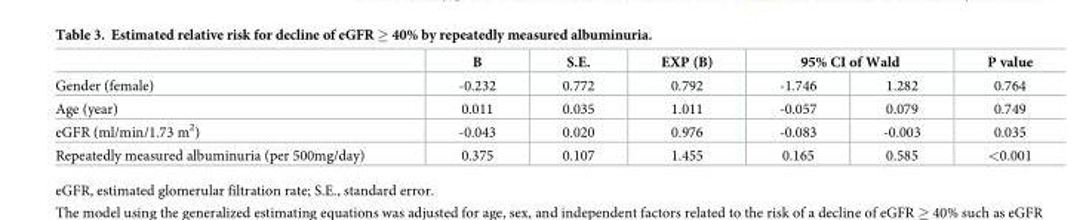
<table><thead><tr><td rowspan="2">Gender (female)</td><td rowspan="2">B -0.232</td><td rowspan="2">S.E. 0.772</td><td rowspan="2">EXP (B) 0.792</td><td colspan="2">95% CI of Wald</td><td rowspan="2">P value 0.764</td></tr><tr><td>-1.746</td><td>1.282</td></tr></thead><tbody><tr><td>Age (year)</td><td>0.011</td><td>0.035</td><td>1.011</td><td>-0.057</td><td>0.079</td><td>0.749</td></tr><tr><td>eGFR (ml/min/1.73 m<sup>2</sup>)</td><td>-0.043</td><td>0.020</td><td>0.976</td><td>-0.083</td><td>-0.003</td><td>0.035</td></tr><tr><td>Repeatedly measured albuminuria (per 500mg/day)</td><td>0.375</td><td>0.107</td><td>1.455</td><td>0.165</td><td>0.585</td><td>&lt;0.001</td></tr></tbody></table>